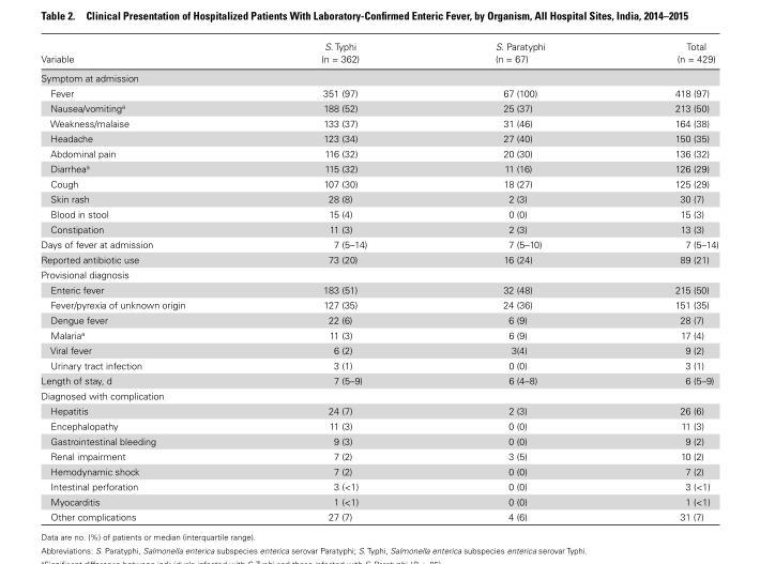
<table><thead><tr><td>Variable</td><td>S. Typhi (n = 362)</td><td>S. Paratyphi (n = 67)</td><td>Total (n = 429)</td></tr></thead><tbody><tr><td colspan="4">Symptom at admission</td></tr><tr><td>Fever</td><td>351 (97)</td><td>67 (100)</td><td>418 (97)</td></tr><tr><td>Nausea/vomiting<sup>a</sup></td><td>188 (52)</td><td>25 (37)</td><td>213 (50)</td></tr><tr><td>Weakness/malaise</td><td>133 (37)</td><td>31 (46)</td><td>164 (38)</td></tr><tr><td>Headache</td><td>123 (34)</td><td>27 (40)</td><td>150 (35)</td></tr><tr><td>Abdominal pain</td><td>116 (32)</td><td>20 (30)</td><td>136 (32)</td></tr><tr><td>Diarrhea<sup>a</sup></td><td>115 (32)</td><td>11 (16)</td><td>126 (29)</td></tr><tr><td>Cough</td><td>107 (30)</td><td>18 (27)</td><td>125 (29)</td></tr><tr><td>Skin rash</td><td>28 (8)</td><td>2 (3)</td><td>30 (7)</td></tr><tr><td>Blood in stool</td><td>15 (4)</td><td>0 (0)</td><td>15 (3)</td></tr><tr><td>Constipation</td><td>11 (3)</td><td>2 (3)</td><td>13 (3)</td></tr><tr><td>Days of fever at admission</td><td>7 (5–14)</td><td>7 (5–10)</td><td>7 (5–14)</td></tr><tr><td>Reported antibiotic use</td><td>73 (20)</td><td>16 (24)</td><td>89 (21)</td></tr><tr><td colspan="4">Provisional diagnosis</td></tr><tr><td>Enteric fever</td><td>183 (51)</td><td>32 (48)</td><td>215 (50)</td></tr><tr><td>Fever/pyrexia of unknown origin</td><td>127 (35)</td><td>24 (36)</td><td>151 (35)</td></tr><tr><td>Dengue fever</td><td>22 (6)</td><td>6 (9)</td><td>28 (7)</td></tr><tr><td>Malaria<sup>a</sup></td><td>11 (3)</td><td>6 (9)</td><td>17 (4)</td></tr><tr><td>Viral fever</td><td>6 (2)</td><td>3(4)</td><td>9 (2)</td></tr><tr><td>Urinary tract infection</td><td>3 (1)</td><td>0 (0)</td><td>3 (1)</td></tr><tr><td>Length of stay, d</td><td>7 (5–9)</td><td>6 (4–8)</td><td>6 (5–9)</td></tr><tr><td colspan="4">Diagnosed with complication</td></tr><tr><td>Hepatitis</td><td>24 (7)</td><td>2 (3)</td><td>26 (6)</td></tr><tr><td>Encephalopathy</td><td>11 (3)</td><td>0 (0)</td><td>11 (3)</td></tr><tr><td>Gastrointestinal bleeding</td><td>9 (3)</td><td>0 (0)</td><td>9 (2)</td></tr><tr><td>Renal impairment</td><td>7 (2)</td><td>3 (5)</td><td>10 (2)</td></tr><tr><td>Hemodynamic shock</td><td>7 (2)</td><td>0 (0)</td><td>7 (2)</td></tr><tr><td>Intestinal perforation</td><td>3 (&lt;1)</td><td>0 (0)</td><td>3 (&lt;1)</td></tr><tr><td>Myocarditis</td><td>1 (&lt;1)</td><td>0 (0)</td><td>1 (&lt;1)</td></tr><tr><td>Other complications</td><td>27 (7)</td><td>4 (6)</td><td>31 (7)</td></tr></tbody></table>